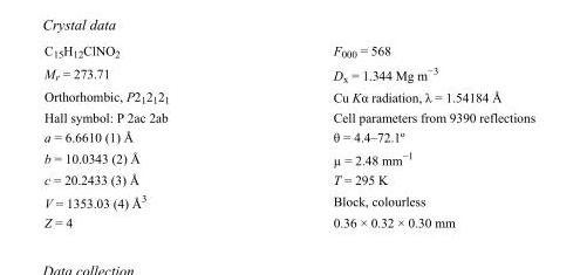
<table><tbody><tr><td>C<sub>15</sub>H<sub>12</sub>ClNO<sub>2</sub></td><td>F000 = 568</td></tr><tr><td>M<sub>r</sub> = 273.71</td><td>D<sub>x</sub> = 1.344 Mg m<sup>−3</sup></td></tr><tr><td>Orthorhombic, P2<sub>1</sub>2<sub>1</sub>2<sub>1</sub></td><td>Cu Kα radiation, λ = 1.54184 Å</td></tr><tr><td>Hall symbol: P 2ac 2ab</td><td>Cell parameters from 9390 reflections</td></tr><tr><td>a = 6.6610 (1) Å</td><td>θ = 4.4–72.1º</td></tr><tr><td>b = 10.0343 (2) Å</td><td>µ = 2.48 mm<sup>−1</sup></td></tr><tr><td>c = 20.2433 (3) Å</td><td>T = 295 K</td></tr><tr><td>V = 1353.03 (4) Å<sup>3</sup></td><td>Block, colourless</td></tr><tr><td>Z = 4</td><td>0.36 × 0.32 × 0.30 mm</td></tr></tbody></table>